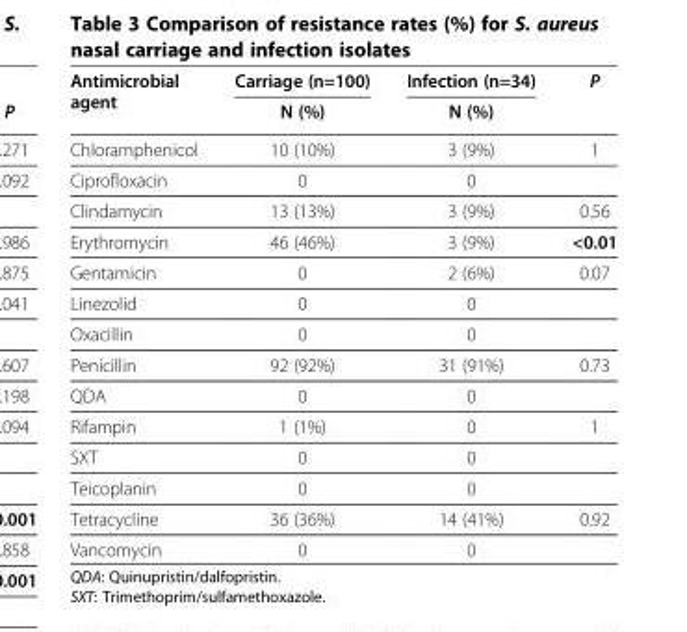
<table><thead><tr><td rowspan="2">Antimicrobial agent</td><td rowspan="2">Carriage (n=100) N (%)</td><td rowspan="2">Infection (n=34) N (%)</td><td rowspan="2">P</td></tr><tr></tr></thead><tbody><tr><td>Chloramphenicol</td><td>10 (10%)</td><td>3 (9%)</td><td>1</td></tr><tr><td>Ciprofloxacin</td><td>0</td><td>0</td><td></td></tr><tr><td>Clindamycin</td><td>13 (13%)</td><td>3 (9%)</td><td>0.56</td></tr><tr><td>Erythromycin</td><td>46 (46%)</td><td>3 (9%)</td><td>&lt;0.01</td></tr><tr><td>Gentamicin</td><td>0</td><td>2 (6%)</td><td>0.07</td></tr><tr><td>Linezolid</td><td>0</td><td>0</td><td></td></tr><tr><td>Oxacillin</td><td>0</td><td>0</td><td></td></tr><tr><td>Penicillin</td><td>92 (92%)</td><td>31 (91%)</td><td>0.73</td></tr><tr><td>QDA</td><td>0</td><td>0</td><td></td></tr><tr><td>Rifampin</td><td>1 (1%)</td><td>0</td><td>1</td></tr><tr><td>SXT</td><td>0</td><td>0</td><td></td></tr><tr><td>Teicoplanin</td><td>0</td><td>0</td><td></td></tr><tr><td>Tetracycline</td><td>36 (36%)</td><td>14 (41%)</td><td>0.92</td></tr><tr><td>Vancomycin</td><td>0</td><td>0</td><td></td></tr></tbody></table>